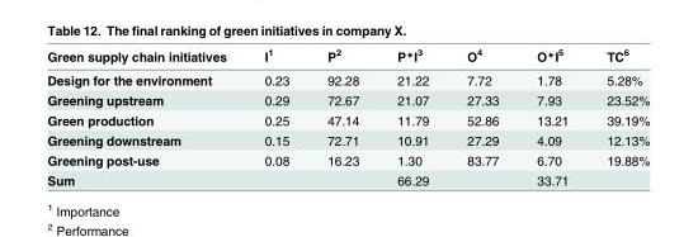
<table><thead><tr><td>Green supply chain initiatives</td><td>I<sup>1</sup></td><td>P<sup>2</sup></td><td>P*I<sup>3</sup></td><td>O<sup>4</sup></td><td>O*I<sup>5</sup></td><td>TC<sup>6</sup></td></tr></thead><tbody><tr><td>Design for the environment</td><td>0.23</td><td>92.28</td><td>21.22</td><td>7.72</td><td>1.78</td><td>5.28%</td></tr><tr><td>Greening upstream</td><td>0.29</td><td>72.67</td><td>21.07</td><td>27.33</td><td>7.93</td><td>23.52%</td></tr><tr><td>Green production</td><td>0.25</td><td>47.14</td><td>11.79</td><td>52.86</td><td>13.21</td><td>39.19%</td></tr><tr><td>Greening downstream</td><td>0.15</td><td>72.71</td><td>10.91</td><td>27.29</td><td>4.09</td><td>12.13%</td></tr><tr><td>Greening post-use</td><td>0.08</td><td>16.23</td><td>1.30</td><td>83.77</td><td>6.70</td><td>19.88%</td></tr><tr><td>Sum</td><td></td><td></td><td>66.29</td><td></td><td>33.71</td><td></td></tr></tbody></table>